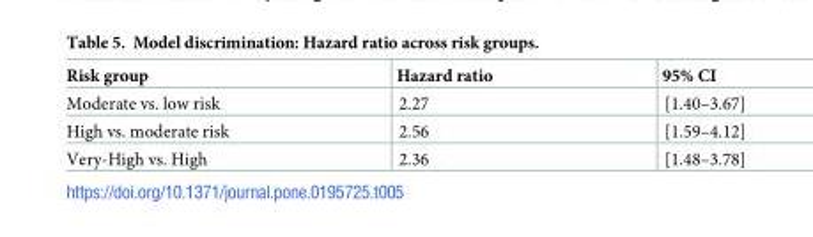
<table><thead><tr><td>Risk group</td><td>Hazard ratio</td><td>95% CI</td></tr></thead><tbody><tr><td>Moderate vs. low risk</td><td>2.27</td><td>[1.40–3.67]</td></tr><tr><td>High vs. moderate risk</td><td>2.56</td><td>[1.59–4.12]</td></tr><tr><td>Very-High vs. High</td><td>2.36</td><td>[1.48–3.78]</td></tr></tbody></table>